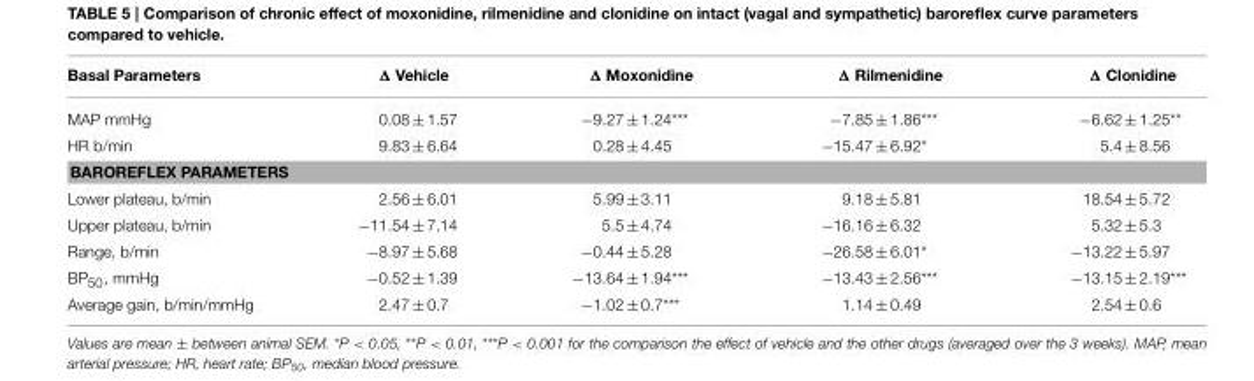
<table><thead><tr><td>Basal Parameters</td><td>Δ Vehicle</td><td>Δ Moxonidine</td><td>Δ Rilmenidine</td><td>Δ Clonidine</td></tr></thead><tbody><tr><td>MAP mmHg</td><td>0.08 ± 1.57</td><td>−9.27 ± 1.24***</td><td>−7.85 ± 1.86***</td><td>−6.62 ± 1.25**</td></tr><tr><td>HR b/min</td><td>9.83 ± 6.64</td><td>0.28 ± 4.45</td><td>−15.47 ± 6.92*</td><td>5.4 ± 8.56</td></tr><tr><td colspan="5">BAROREFLEX PARAMETERS</td></tr><tr><td>Lower plateau, b/min</td><td>2.56 ± 6.01</td><td>5.99 ± 3.11</td><td>9.18 ± 5.81</td><td>18.54 ± 5.72</td></tr><tr><td>Upper plateau, b/min</td><td>−11.54 ± 7.14</td><td>5.5 ± 4.74</td><td>−16.16 ± 6.32</td><td>5.32 ± 5.3</td></tr><tr><td>Range, b/min</td><td>−8.97 ± 5.68</td><td>−0.44 ± 5.28</td><td>−26.58 ± 6.01*</td><td>−13.22 ± 5.97</td></tr><tr><td>BP<sub>50</sub>, mmHg</td><td>−0.52 ± 1.39</td><td>−13.64 ± 1.94***</td><td>−13.43 ± 2.56***</td><td>−13.15 ± 2.19***</td></tr><tr><td>Average gain, b/min/mmHg</td><td>2.47 ± 0.7</td><td>−1.02 ± 0.7***</td><td>1.14 ± 0.49</td><td>2.54 ± 0.6</td></tr></tbody></table>